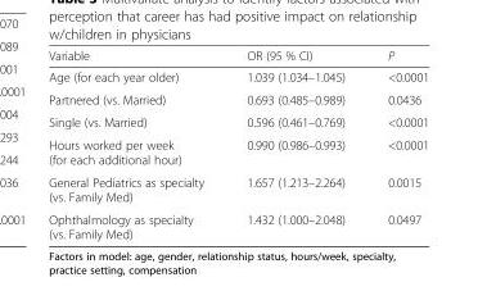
<table><thead><tr><td>Variable</td><td>OR (95 % CI)</td><td>P</td></tr></thead><tbody><tr><td>Age (for each year older)</td><td>1.039 (1.034–1.045)</td><td>&lt;0.0001</td></tr><tr><td>Partnered (vs. Married)</td><td>0.693 (0.485–0.989)</td><td>0.0436</td></tr><tr><td>Single (vs. Married)</td><td>0.596 (0.461–0.769)</td><td>&lt;0.0001</td></tr><tr><td>Hours worked per week (for each additional hour)</td><td>0.990 (0.986–0.993)</td><td>&lt;0.0001</td></tr><tr><td>General Pediatrics as specialty (vs. Family Med)</td><td>1.657 (1.213–2.264)</td><td>0.0015</td></tr><tr><td>Ophthalmology as specialty (vs. Family Med)</td><td>1.432 (1.000–2.048)</td><td>0.0497</td></tr></tbody></table>